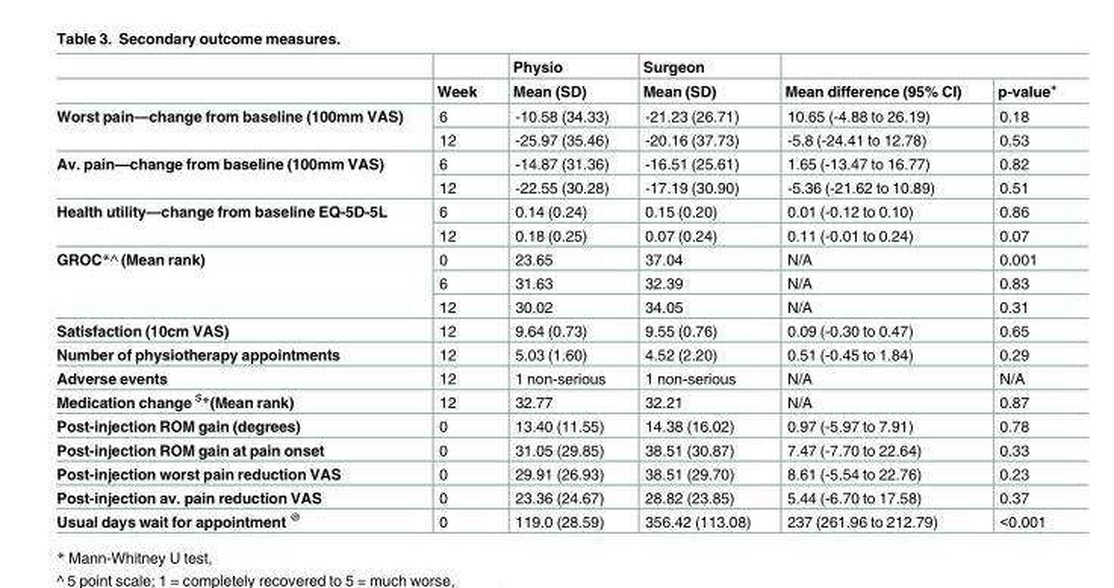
<table><thead><tr><td rowspan="2"></td><td rowspan="2">Week</td><td rowspan="2">Physio Mean (SD)</td><td rowspan="2">Surgeon Mean (SD)</td><td rowspan="2">Mean difference (95% CI)</td><td rowspan="2">p-value<sup>+</sup></td></tr><tr></tr></thead><tbody><tr><td rowspan="2">Worst pain—change from baseline (100mm VAS)</td><td>6</td><td>-10.58 (34.33)</td><td>-21.23 (26.71)</td><td>10.65 (-4.88 to 26.19)</td><td>0.18</td></tr><tr><td>12</td><td>-25.97 (35.46)</td><td>-20.16 (37.73)</td><td>-5.8 (-24.41 to 12.78)</td><td>0.53</td></tr><tr><td rowspan="2">Av. pain—change from baseline (100mm VAS)</td><td>6</td><td>-14.87 (31.36)</td><td>-16.51 (25.61)</td><td>1.65 (-13.47 to 16.77)</td><td>0.82</td></tr><tr><td>12</td><td>-22.55 (30.28)</td><td>-17.19 (30.90)</td><td>-5.36 (-21.62 to 10.89)</td><td>0.51</td></tr><tr><td rowspan="2">Health utility—change from baseline EQ-5D-5L</td><td>6</td><td>0.14 (0.24)</td><td>0.15 (0.20)</td><td>0.01 (-0.12 to 0.10)</td><td>0.86</td></tr><tr><td>12</td><td>0.18 (0.25)</td><td>0.07 (0.24)</td><td>0.11 (-0.01 to 0.24)</td><td>0.07</td></tr><tr><td rowspan="3">GROC*^ (Mean rank)</td><td>0</td><td>23.65</td><td>37.04</td><td>N/A</td><td>0.001</td></tr><tr><td>6</td><td>31.63</td><td>32.39</td><td>N/A</td><td>0.83</td></tr><tr><td>12</td><td>30.02</td><td>34.05</td><td>N/A</td><td>0.31</td></tr><tr><td>Satisfaction (10cm VAS)</td><td>12</td><td>9.64 (0.73)</td><td>9.55 (0.76)</td><td>0.09 (-0.30 to 0.47)</td><td>0.65</td></tr><tr><td>Number of physiotherapy appointments</td><td>12</td><td>5.03 (1.60)</td><td>4.52 (2.20)</td><td>0.51 (-0.45 to 1.84)</td><td>0.29</td></tr><tr><td>Adverse events</td><td>12</td><td>1 non-serious</td><td>1 non-serious</td><td>N/A</td><td>N/A</td></tr><tr><td>Medication change <sup>$</sup>*(Mean rank)</td><td>12</td><td>32.77</td><td>32.21</td><td>N/A</td><td>0.87</td></tr><tr><td>Post-injection ROM gain (degrees)</td><td>0</td><td>13.40 (11.55)</td><td>14.38 (16.02)</td><td>0.97 (-5.97 to 7.91)</td><td>0.78</td></tr><tr><td>Post-injection ROM gain at pain onset</td><td>0</td><td>31.05 (29.85)</td><td>38.51 (30.87)</td><td>7.47 (-7.70 to 22.64)</td><td>0.33</td></tr><tr><td>Post-injection worst pain reduction VAS</td><td>0</td><td>29.91 (26.93)</td><td>38.51 (29.70)</td><td>8.61 (-5.54 to 22.76)</td><td>0.23</td></tr><tr><td>Post-injection av. pain reduction VAS</td><td>0</td><td>23.36 (24.67)</td><td>28.82 (23.85)</td><td>5.44 (-6.70 to 17.58)</td><td>0.37</td></tr><tr><td>Usual days wait for appointment <sup>@</sup></td><td>0</td><td>119.0 (28.59)</td><td>356.42 (113.08)</td><td>237 (261.96 to 212.79)</td><td>&lt;0.001</td></tr></tbody></table>